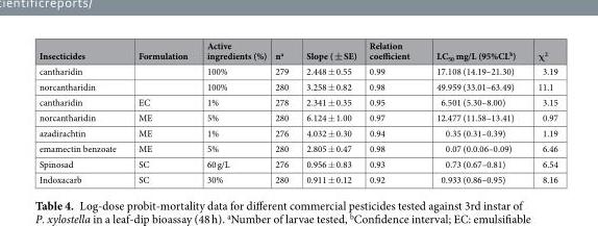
<table><thead><tr><td>Insecticides</td><td>Formulation</td><td>Active ingredients (%)</td><td>n<sup>a</sup></td><td>Slope ( ± SE)</td><td>Relation coefficient</td><td>LC<sub>50</sub> mg/L (95%CL<sup>b</sup>)</td><td>χ<sup>2</sup></td></tr></thead><tbody><tr><td>cantharidin</td><td></td><td>100%</td><td>279</td><td>2.448 ± 0.55</td><td>0.99</td><td>17.108 (14.19–21.30)</td><td>3.19</td></tr><tr><td>norcantharidin</td><td></td><td>100%</td><td>280</td><td>3.258 ± 0.82</td><td>0.98</td><td>49.959 (33.01–63.49)</td><td>11.1</td></tr><tr><td>cantharidin</td><td>EC</td><td>1%</td><td>278</td><td>2.341 ± 0.35</td><td>0.95</td><td>6.501 (5.30–8.00)</td><td>3.15</td></tr><tr><td>norcantharidin</td><td>ME</td><td>5%</td><td>280</td><td>6.124 ± 1.00</td><td>0.97</td><td>12.477 (11.58–13.41)</td><td>0.97</td></tr><tr><td>azadirachtin</td><td>ME</td><td>1%</td><td>276</td><td>4.032 ± 0.30</td><td>0.94</td><td>0.35 (0.31–0.39)</td><td>1.19</td></tr><tr><td>emamectin benzoate</td><td>ME</td><td>5%</td><td>280</td><td>2.805 ± 0.47</td><td>0.98</td><td>0.07 (0.0.06–0.09)</td><td>6.46</td></tr><tr><td>Spinosad</td><td>SC</td><td>60 g/L</td><td>276</td><td>0.956 ± 0.83</td><td>0.93</td><td>0.73 (0.67–0.81)</td><td>6.54</td></tr><tr><td>Indoxacarb</td><td>SC</td><td>30%</td><td>280</td><td>0.911 ± 0.12</td><td>0.92</td><td>0.933 (0.86–0.95)</td><td>8.16</td></tr></tbody></table>